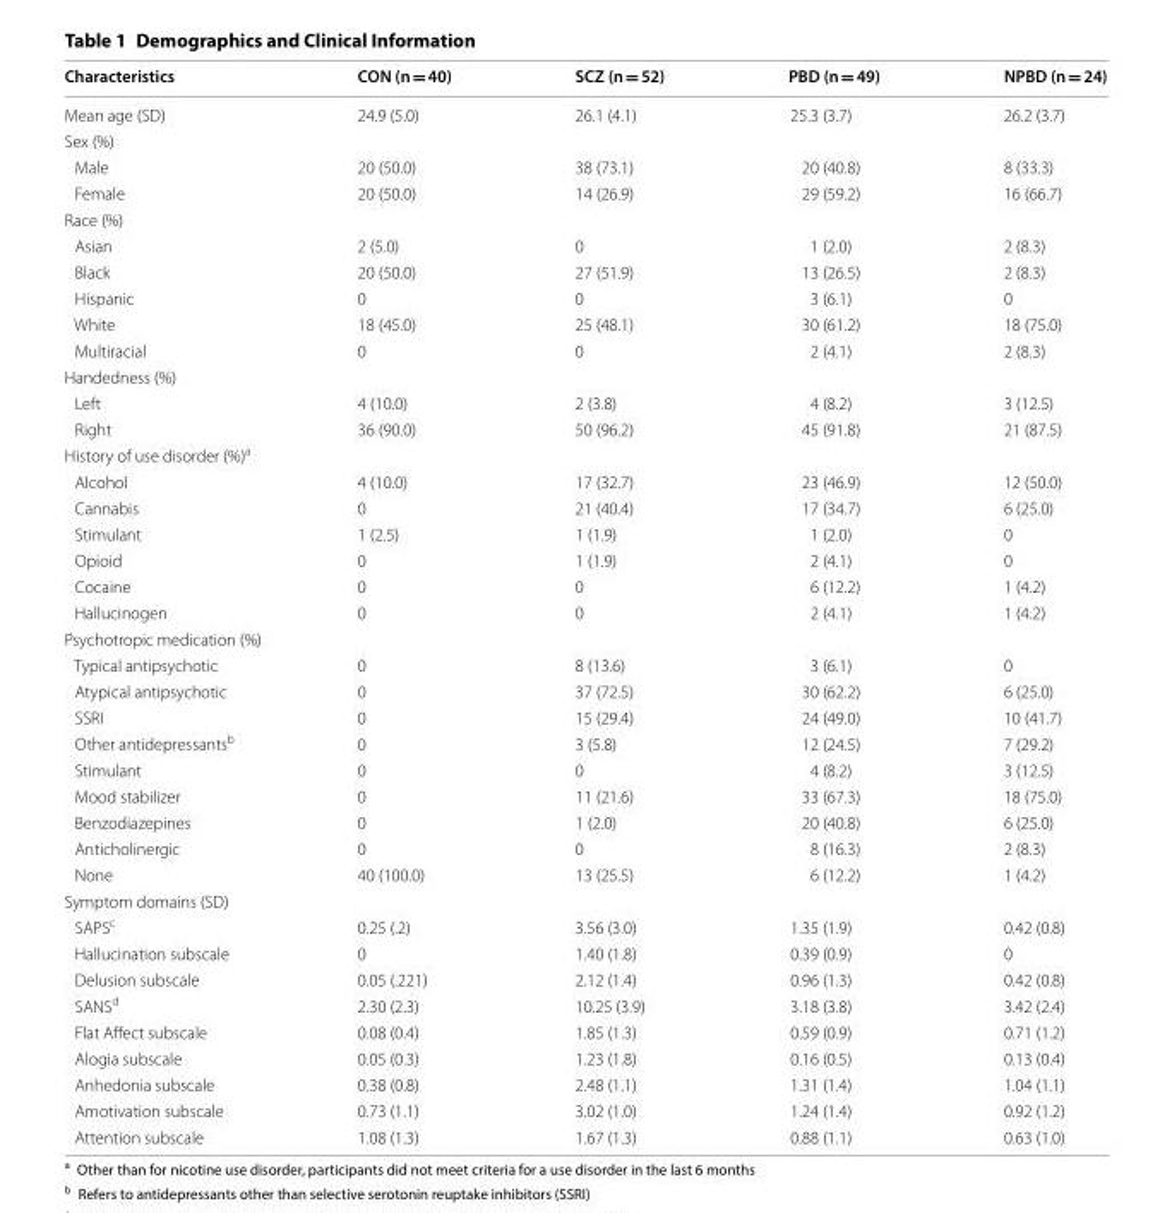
<table><thead><tr><td>Characteristics</td><td>CON (n = 40)</td><td>SCZ (n = 52)</td><td>PBD (n = 49)</td><td>NPBD (n = 24)</td></tr></thead><tbody><tr><td>Mean age (SD)</td><td>24.9 (5.0)</td><td>26.1 (4.1)</td><td>25.3 (3.7)</td><td>26.2 (3.7)</td></tr><tr><td colspan="5">Sex (%)</td></tr><tr><td>Male</td><td>20 (50.0)</td><td>38 (73.1)</td><td>20 (40.8)</td><td>8 (33.3)</td></tr><tr><td>Female</td><td>20 (50.0)</td><td>14 (26.9)</td><td>29 (59.2)</td><td>16 (66.7)</td></tr><tr><td colspan="5">Race (%)</td></tr><tr><td>Asian</td><td>2 (5.0)</td><td>0</td><td>1 (2.0)</td><td>2 (8.3)</td></tr><tr><td>Black</td><td>20 (50.0)</td><td>27 (51.9)</td><td>13 (26.5)</td><td>2 (8.3)</td></tr><tr><td>Hispanic</td><td>0</td><td>0</td><td>3 (6.1)</td><td>0</td></tr><tr><td>White</td><td>18 (45.0)</td><td>25 (48.1)</td><td>30 (61.2)</td><td>18 (75.0)</td></tr><tr><td>Multiracial</td><td>0</td><td>0</td><td>2 (4.1)</td><td>2 (8.3)</td></tr><tr><td colspan="5">Handedness (%)</td></tr><tr><td>Left</td><td>4 (10.0)</td><td>2 (3.8)</td><td>4 (8.2)</td><td>3 (12.5)</td></tr><tr><td>Right</td><td>36 (90.0)</td><td>50 (96.2)</td><td>45 (91.8)</td><td>21 (87.5)</td></tr><tr><td colspan="5">History of use disorder (%)<sup>a</sup></td></tr><tr><td>Alcohol</td><td>4 (10.0)</td><td>17 (32.7)</td><td>23 (46.9)</td><td>12 (50.0)</td></tr><tr><td>Cannabis</td><td>0</td><td>21 (40.4)</td><td>17 (34.7)</td><td>6 (25.0)</td></tr><tr><td>Stimulant</td><td>1 (2.5)</td><td>1 (1.9)</td><td>1 (2.0)</td><td>0</td></tr><tr><td>Opioid</td><td>0</td><td>1 (1.9)</td><td>2 (4.1)</td><td>0</td></tr><tr><td>Cocaine</td><td>0</td><td>0</td><td>6 (12.2)</td><td>1 (4.2)</td></tr><tr><td>Hallucinogen</td><td>0</td><td>0</td><td>2 (4.1)</td><td>1 (4.2)</td></tr><tr><td colspan="5">Psychotropic medication (%)</td></tr><tr><td>Typical antipsychotic</td><td>0</td><td>8 (13.6)</td><td>3 (6.1)</td><td>0</td></tr><tr><td>Atypical antipsychotic</td><td>0</td><td>37 (72.5)</td><td>30 (62.2)</td><td>6 (25.0)</td></tr><tr><td>SSRI</td><td>0</td><td>15 (29.4)</td><td>24 (49.0)</td><td>10 (41.7)</td></tr><tr><td>Other antidepressants<sup>b</sup></td><td>0</td><td>3 (5.8)</td><td>12 (24.5)</td><td>7 (29.2)</td></tr><tr><td>Stimulant</td><td>0</td><td>0</td><td>4 (8.2)</td><td>3 (12.5)</td></tr><tr><td>Mood stabilizer</td><td>0</td><td>11 (21.6)</td><td>33 (67.3)</td><td>18 (75.0)</td></tr><tr><td>Benzodiazepines</td><td>0</td><td>1 (2.0)</td><td>20 (40.8)</td><td>6 (25.0)</td></tr><tr><td>Anticholinergic</td><td>0</td><td>0</td><td>8 (16.3)</td><td>2 (8.3)</td></tr><tr><td>None</td><td>40 (100.0)</td><td>13 (25.5)</td><td>6 (12.2)</td><td>1 (4.2)</td></tr><tr><td colspan="5">Symptom domains (SD)</td></tr><tr><td>SAPS<sup>c</sup></td><td>0.25 (.2)</td><td>3.56 (3.0)</td><td>1.35 (1.9)</td><td>0.42 (0.8)</td></tr><tr><td>Hallucination subscale</td><td>0</td><td>1.40 (1.8)</td><td>0.39 (0.9)</td><td>0</td></tr><tr><td>Delusion subscale</td><td>0.05 (.221)</td><td>2.12 (1.4)</td><td>0.96 (1.3)</td><td>0.42 (0.8)</td></tr><tr><td>SANS<sup>d</sup></td><td>2.30 (2.3)</td><td>10.25 (3.9)</td><td>3.18 (3.8)</td><td>3.42 (2.4)</td></tr><tr><td>Flat Affect subscale</td><td>0.08 (0.4)</td><td>1.85 (1.3)</td><td>0.59 (0.9)</td><td>0.71 (1.2)</td></tr><tr><td>Alogia subscale</td><td>0.05 (0.3)</td><td>1.23 (1.8)</td><td>0.16 (0.5)</td><td>0.13 (0.4)</td></tr><tr><td>Anhedonia subscale</td><td>0.38 (0.8)</td><td>2.48 (1.1)</td><td>1.31 (1.4)</td><td>1.04 (1.1)</td></tr><tr><td>Amotivation subscale</td><td>0.73 (1.1)</td><td>3.02 (1.0)</td><td>1.24 (1.4)</td><td>0.92 (1.2)</td></tr><tr><td>Attention subscale</td><td>1.08 (1.3)</td><td>1.67 (1.3)</td><td>0.88 (1.1)</td><td>0.63 (1.0)</td></tr></tbody></table>